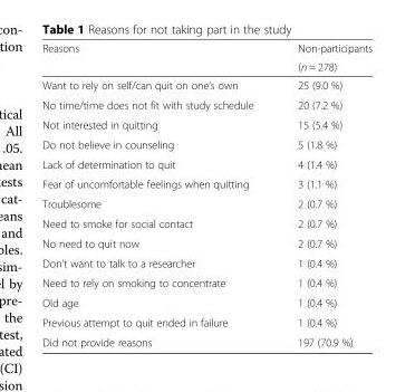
<table><thead><tr><td rowspan="2">Reasons</td><td rowspan="2">Non-participants (n = 278)</td></tr><tr></tr></thead><tbody><tr><td>Want to rely on self/can quit on one’s own</td><td>25 (9.0 %)</td></tr><tr><td>No time/time does not fit with study schedule</td><td>20 (7.2 %)</td></tr><tr><td>Not interested in quitting</td><td>15 (5.4 %)</td></tr><tr><td>Do not believe in counseling</td><td>5 (1.8 %)</td></tr><tr><td>Lack of determination to quit</td><td>4 (1.4 %)</td></tr><tr><td>Fear of uncomfortable feelings when quitting</td><td>3 (1.1 %)</td></tr><tr><td>Troublesome</td><td>2 (0.7 %)</td></tr><tr><td>Need to smoke for social contact</td><td>2 (0.7 %)</td></tr><tr><td>No need to quit now</td><td>2 (0.7 %)</td></tr><tr><td>Don’t want to talk to a researcher</td><td>1 (0.4 %)</td></tr><tr><td>Need to rely on smoking to concentrate</td><td>1 (0.4 %)</td></tr><tr><td>Old age</td><td>1 (0.4 %)</td></tr><tr><td>Previous attempt to quit ended in failure</td><td>1 (0.4 %)</td></tr><tr><td>Did not provide reasons</td><td>197 (70.9 %)</td></tr></tbody></table>